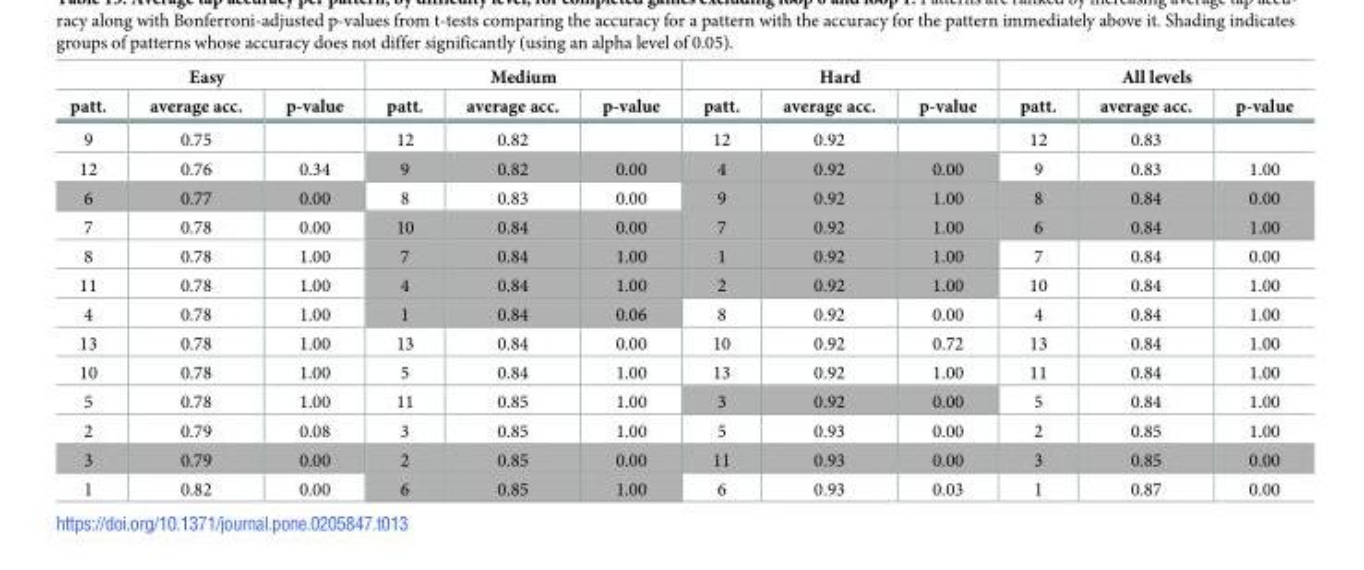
<table><thead><tr><td colspan="3">Easy</td><td colspan="3">Medium</td><td colspan="3">Hard</td><td colspan="3">All levels</td></tr><tr><td>patt.</td><td>average acc.</td><td>p-value</td><td>patt.</td><td>average acc.</td><td>p-value</td><td>patt.</td><td>average acc.</td><td>p-value</td><td>patt.</td><td>average acc.</td><td>p-value</td></tr></thead><tbody><tr><td>9</td><td>0.75</td><td></td><td>12</td><td>0.82</td><td></td><td>12</td><td>0.92</td><td></td><td>12</td><td>0.83</td><td></td></tr><tr><td>12</td><td>0.76</td><td>0.34</td><td>9</td><td>0.82</td><td>0.00</td><td>4</td><td>0.92</td><td>0.00</td><td>9</td><td>0.83</td><td>1.00</td></tr><tr><td>6</td><td>0.77</td><td>0.00</td><td>8</td><td>0.83</td><td>0.00</td><td>9</td><td>0.92</td><td>1.00</td><td>8</td><td>0.84</td><td>0.00</td></tr><tr><td>7</td><td>0.78</td><td>0.00</td><td>10</td><td>0.84</td><td>0.00</td><td>7</td><td>0.92</td><td>1.00</td><td>6</td><td>0.84</td><td>1.00</td></tr><tr><td>8</td><td>0.78</td><td>1.00</td><td>7</td><td>0.84</td><td>1.00</td><td>1</td><td>0.92</td><td>1.00</td><td>7</td><td>0.84</td><td>0.00</td></tr><tr><td>11</td><td>0.78</td><td>1.00</td><td>4</td><td>0.84</td><td>1.00</td><td>2</td><td>0.92</td><td>1.00</td><td>10</td><td>0.84</td><td>1.00</td></tr><tr><td>4</td><td>0.78</td><td>1.00</td><td>1</td><td>0.84</td><td>0.06</td><td>8</td><td>0.92</td><td>0.00</td><td>4</td><td>0.84</td><td>1.00</td></tr><tr><td>13</td><td>0.78</td><td>1.00</td><td>13</td><td>0.84</td><td>0.00</td><td>10</td><td>0.92</td><td>0.72</td><td>13</td><td>0.84</td><td>1.00</td></tr><tr><td>10</td><td>0.78</td><td>1.00</td><td>5</td><td>0.84</td><td>1.00</td><td>13</td><td>0.92</td><td>1.00</td><td>11</td><td>0.84</td><td>1.00</td></tr><tr><td>5</td><td>0.78</td><td>1.00</td><td>11</td><td>0.85</td><td>1.00</td><td>3</td><td>0.92</td><td>0.00</td><td>5</td><td>0.84</td><td>1.00</td></tr><tr><td>2</td><td>0.79</td><td>0.08</td><td>3</td><td>0.85</td><td>1.00</td><td>5</td><td>0.93</td><td>0.00</td><td>2</td><td>0.85</td><td>1.00</td></tr><tr><td>3</td><td>0.79</td><td>0.00</td><td>2</td><td>0.85</td><td>0.00</td><td>11</td><td>0.93</td><td>0.00</td><td>3</td><td>0.85</td><td>0.00</td></tr><tr><td>1</td><td>0.82</td><td>0.00</td><td>6</td><td>0.85</td><td>1.00</td><td>6</td><td>0.93</td><td>0.03</td><td>1</td><td>0.87</td><td>0.00</td></tr></tbody></table>